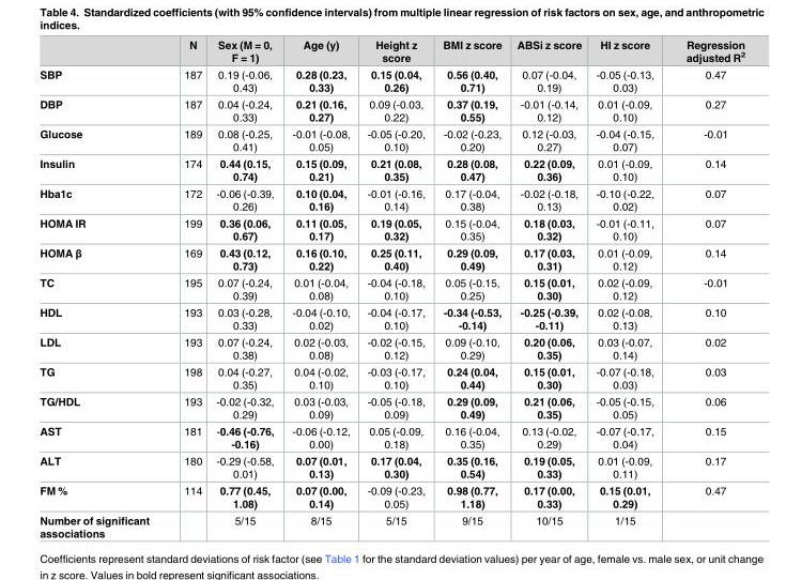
<table><thead><tr><td></td><td>N</td><td>Sex (M = 0, F = 1)</td><td>Age (y)</td><td>Height z score</td><td>BMI z score</td><td>ABSi z score</td><td>HI z score</td><td>Regression adjusted R<sup>2</sup></td></tr></thead><tbody><tr><td>SBP</td><td>187</td><td>0.19 (-0.06, 0.43)</td><td>0.28 (0.23, 0.33)</td><td>0.15 (0.04, 0.26)</td><td>0.56 (0.40, 0.71)</td><td>0.07 (-0.04, 0.19)</td><td>-0.05 (-0.13, 0.03)</td><td>0.47</td></tr><tr><td>DBP</td><td>187</td><td>0.04 (-0.24, 0.33)</td><td>0.21 (0.16, 0.27)</td><td>0.09 (-0.03, 0.22)</td><td>0.37 (0.19, 0.55)</td><td>-0.01 (-0.14, 0.12)</td><td>0.01 (-0.09, 0.10)</td><td>0.27</td></tr><tr><td>Glucose</td><td>189</td><td>0.08 (-0.25, 0.41)</td><td>-0.01 (-0.08, 0.05)</td><td>-0.05 (-0.20, 0.10)</td><td>-0.02 (-0.23, 0.20)</td><td>0.12 (-0.03, 0.27)</td><td>-0.04 (-0.15, 0.07)</td><td>-0.01</td></tr><tr><td>Insulin</td><td>174</td><td>0.44 (0.15, 0.74)</td><td>0.15 (0.09, 0.21)</td><td>0.21 (0.08, 0.35)</td><td>0.28 (0.08, 0.47)</td><td>0.22 (0.09, 0.36)</td><td>0.01 (-0.09, 0.10)</td><td>0.14</td></tr><tr><td>Hba1c</td><td>172</td><td>-0.06 (-0.39, 0.26)</td><td>0.10 (0.04, 0.16)</td><td>-0.01 (-0.16, 0.14)</td><td>0.17 (-0.04, 0.38)</td><td>-0.02 (-0.18, 0.13)</td><td>-0.10 (-0.22, 0.02)</td><td>0.07</td></tr><tr><td>HOMA IR</td><td>199</td><td>0.36 (0.06, 0.67)</td><td>0.11 (0.05, 0.17)</td><td>0.19 (0.05, 0.32)</td><td>0.15 (-0.04, 0.35)</td><td>0.18 (0.03, 0.32)</td><td>-0.01 (-0.11, 0.10)</td><td>0.07</td></tr><tr><td>HOMA β</td><td>169</td><td>0.43 (0.12, 0.73)</td><td>0.16 (0.10, 0.22)</td><td>0.25 (0.11, 0.40)</td><td>0.29 (0.09, 0.49)</td><td>0.17 (0.03, 0.31)</td><td>0.01 (-0.09, 0.12)</td><td>0.14</td></tr><tr><td>TC</td><td>195</td><td>0.07 (-0.24, 0.39)</td><td>0.01 (-0.04, 0.08)</td><td>-0.04 (-0.18, 0.10)</td><td>0.05 (-0.15, 0.25)</td><td>0.15 (0.01, 0.30)</td><td>0.02 (-0.09, 0.12)</td><td>-0.01</td></tr><tr><td>HDL</td><td>193</td><td>0.03 (-0.28, 0.33)</td><td>-0.04 (-0.10, 0.02)</td><td>-0.04 (-0.17, 0.10)</td><td>-0.34 (-0.53, -0.14)</td><td>-0.25 (-0.39, -0.11)</td><td>0.02 (-0.08, 0.13)</td><td>0.10</td></tr><tr><td>LDL</td><td>193</td><td>0.07 (-0.24, 0.38)</td><td>0.02 (-0.03, 0.08)</td><td>-0.02 (-0.15, 0.12)</td><td>0.09 (-0.10, 0.29)</td><td>0.20 (0.06, 0.35)</td><td>0.03 (-0.07, 0.14)</td><td>0.02</td></tr><tr><td>TG</td><td>198</td><td>0.04 (-0.27, 0.35)</td><td>0.04 (-0.02, 0.10)</td><td>-0.03 (-0.17, 0.10)</td><td>0.24 (0.04, 0.44)</td><td>0.15 (0.01, 0.30)</td><td>-0.07 (-0.18, 0.03)</td><td>0.03</td></tr><tr><td>TG/HDL</td><td>193</td><td>-0.02 (-0.32, 0.29)</td><td>0.03 (-0.03, 0.09)</td><td>-0.05 (-0.18, 0.09)</td><td>0.29 (0.09, 0.49)</td><td>0.21 (0.06, 0.35)</td><td>-0.05 (-0.15, 0.05)</td><td>0.06</td></tr><tr><td>AST</td><td>181</td><td>-0.46 (-0.76, -0.16)</td><td>-0.06 (-0.12, 0.00)</td><td>0.05 (-0.09, 0.18)</td><td>0.16 (-0.04, 0.35)</td><td>0.13 (-0.02, 0.29)</td><td>-0.07 (-0.17, 0.04)</td><td>0.15</td></tr><tr><td>ALT</td><td>180</td><td>-0.29 (-0.58, 0.01)</td><td>0.07 (0.01, 0.13)</td><td>0.17 (0.04, 0.30)</td><td>0.35 (0.16, 0.54)</td><td>0.19 (0.05, 0.33)</td><td>0.01 (-0.09, 0.11)</td><td>0.17</td></tr><tr><td>FM %</td><td>114</td><td>0.77 (0.45, 1.08)</td><td>0.07 (0.00, 0.14)</td><td>-0.09 (-0.23, 0.05)</td><td>0.98 (0.77, 1.18)</td><td>0.17 (0.00, 0.33)</td><td>0.15 (0.01, 0.29)</td><td>0.47</td></tr><tr><td>Number of significant associations</td><td></td><td>5/15</td><td>8/15</td><td>5/15</td><td>9/15</td><td>10/15</td><td>1/15</td><td></td></tr></tbody></table>